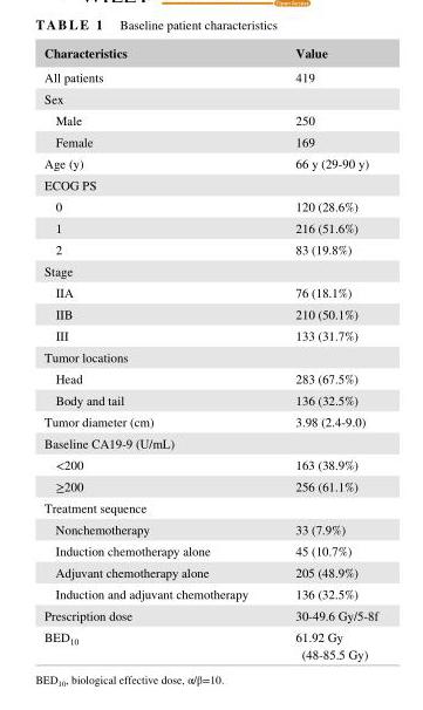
<table><thead><tr><td>Characteristics</td><td>Value</td></tr></thead><tbody><tr><td>All patients</td><td>419</td></tr><tr><td colspan="2">Sex</td></tr><tr><td>Male</td><td>250</td></tr><tr><td>Female</td><td>169</td></tr><tr><td>Age (y)</td><td>66 y (29- 90 y)</td></tr><tr><td colspan="2">ECOG PS</td></tr><tr><td>0</td><td>120 (28.6%)</td></tr><tr><td>1</td><td>216 (51.6%)</td></tr><tr><td>2</td><td>83 (19.8%)</td></tr><tr><td colspan="2">Stage</td></tr><tr><td>IIA</td><td>76 (18.1%)</td></tr><tr><td>IIB</td><td>210 (50.1%)</td></tr><tr><td>III</td><td>133 (31.7%)</td></tr><tr><td colspan="2">Tumor locations</td></tr><tr><td>Head</td><td>283 (67.5%)</td></tr><tr><td>Body and tail</td><td>136 (32.5%)</td></tr><tr><td>Tumor diameter (cm)</td><td>3.98 (2.4- 9.0)</td></tr><tr><td colspan="2">Baseline CA19- 9 (U/mL)</td></tr><tr><td>&lt;200</td><td>163 (38.9%)</td></tr><tr><td>≥200</td><td>256 (61.1%)</td></tr><tr><td colspan="2">Treatment sequence</td></tr><tr><td>Nonchemotherapy</td><td>33 (7.9%)</td></tr><tr><td>Induction chemotherapy alone</td><td>45 (10.7%)</td></tr><tr><td>Adjuvant chemotherapy alone</td><td>205 (48.9%)</td></tr><tr><td>Induction and adjuvant chemotherapy</td><td>136 (32.5%)</td></tr><tr><td>Prescription dose</td><td>30- 49.6 Gy/5- 8f</td></tr><tr><td>BED<sub>10</sub></td><td>61.92 Gy (48- 85.5 Gy)</td></tr></tbody></table>